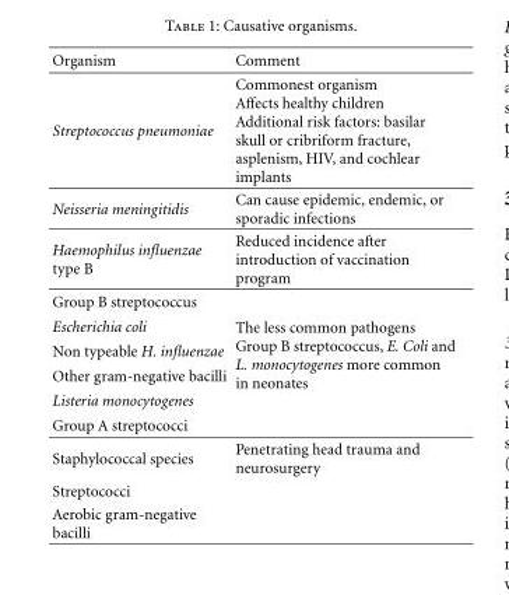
<table><thead><tr><td>Organism</td><td>Comment</td></tr></thead><tbody><tr><td>Streptococcus pneumoniae</td><td>Commonest organism Affects healthy children Additional risk factors: basilar skull or cribriform fracture, asplenism, HIV, and cochlear implants</td></tr><tr><td>Neisseria meningitidis</td><td>Can cause epidemic, endemic, or sporadic infections</td></tr><tr><td>Haemophilus influenzae type B</td><td>Reduced incidence after introduction of vaccination program</td></tr><tr><td>Group B streptococcus</td><td rowspan="6">The less common pathogens Group B streptococcus, E. Coli and L. monocytogenes more common in neonates</td></tr><tr><td>Escherichia coli</td></tr><tr><td>Non typeable H. influenzae</td></tr><tr><td>Other gram-negative bacilli</td></tr><tr><td>Listeria monocytogenes</td></tr><tr><td>Group A streptococci</td></tr><tr><td>Staphylococcal species</td><td>Penetrating head trauma and neurosurgery</td></tr><tr><td colspan="2">Streptococci</td></tr><tr><td>Aerobic gram-negative bacilli</td><td></td></tr></tbody></table>